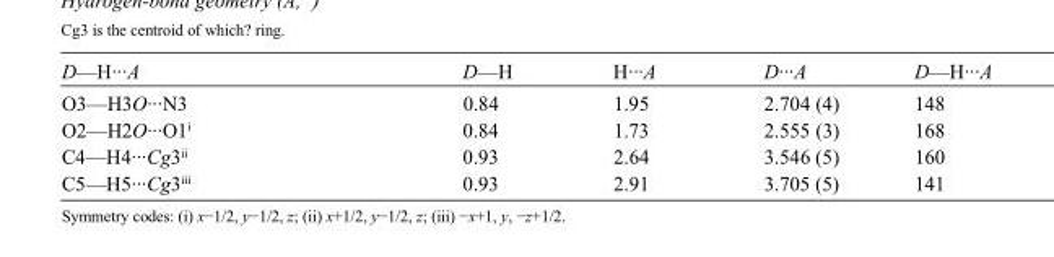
<table><tbody><tr><td>D—H···A</td><td>D—H</td><td>H···A</td><td>D···A</td><td>D—H···A</td></tr><tr><td>O3—H3O···N3</td><td>0.84</td><td>1.95</td><td>2.704 (4)</td><td>148</td></tr><tr><td>O2—H2O···O1<sup>i</sup></td><td>0.84</td><td>1.73</td><td>2.555 (3)</td><td>168</td></tr><tr><td>C4—H4···Cg3<sup>ii</sup></td><td>0.93</td><td>2.64</td><td>3.546 (5)</td><td>160</td></tr><tr><td>C5—H5···Cg3<sup>iii</sup></td><td>0.93</td><td>2.91</td><td>3.705 (5)</td><td>141</td></tr></tbody></table>